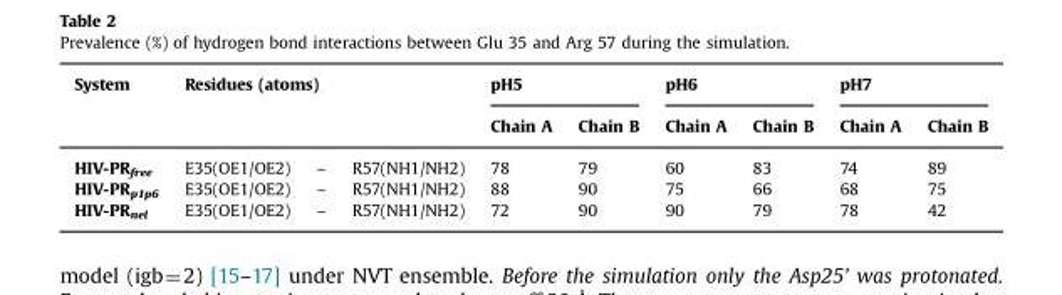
<table><thead><tr><td rowspan="3">System HIV-PR<sub>free</sub></td><td rowspan="2" colspan="3">Residues (atoms)</td><td colspan="2">pH5</td><td colspan="2">pH6</td><td colspan="2">pH7</td></tr><tr><td rowspan="2">Chain A 78</td><td rowspan="2">Chain B 79</td><td rowspan="2">Chain A 60</td><td rowspan="2">Chain B 83</td><td rowspan="2">Chain A 74</td><td rowspan="2">Chain B 89</td></tr><tr><td>E35(OE1/OE2)</td><td>–</td><td>R57(NH1/NH2)</td></tr></thead><tbody><tr><td>HIV-PR<sub>p1p6</sub></td><td>E35(OE1/OE2)</td><td>–</td><td>R57(NH1/NH2)</td><td>88</td><td>90</td><td>75</td><td>66</td><td>68</td><td>75</td></tr><tr><td>HIV-PR<sub>nel</sub></td><td>E35(OE1/OE2)</td><td>–</td><td>R57(NH1/NH2)</td><td>72</td><td>90</td><td>90</td><td>79</td><td>78</td><td>42</td></tr></tbody></table>